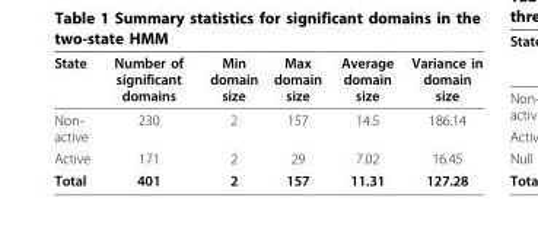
<table><thead><tr><td>State</td><td>Number of significant domains</td><td>Min domain size</td><td>Max domain size</td><td>Average domain size</td><td>Variance in domain size</td></tr></thead><tbody><tr><td>Non- active</td><td>230</td><td>2</td><td>157</td><td>14.5</td><td>186.14</td></tr><tr><td>Active</td><td>171</td><td>2</td><td>29</td><td>7.02</td><td>16.45</td></tr><tr><td>Total</td><td>401</td><td>2</td><td>157</td><td>11.31</td><td>127.28</td></tr></tbody></table>